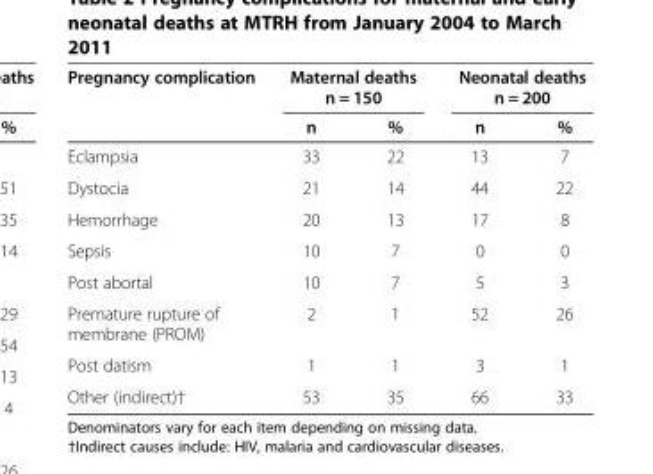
<table><thead><tr><td rowspan="2">Pregnancy complication</td><td colspan="2">Maternal deaths n = 150</td><td colspan="2">Neonatal deaths n = 200</td></tr><tr><td>n</td><td>%</td><td>n</td><td>%</td></tr></thead><tbody><tr><td>Eclampsia</td><td>33</td><td>22</td><td>13</td><td>7</td></tr><tr><td>Dystocia</td><td>21</td><td>14</td><td>44</td><td>22</td></tr><tr><td>Hemorrhage</td><td>20</td><td>13</td><td>17</td><td>8</td></tr><tr><td>Sepsis</td><td>10</td><td>7</td><td>0</td><td>0</td></tr><tr><td>Post abortal</td><td>10</td><td>7</td><td>5</td><td>3</td></tr><tr><td>Premature rupture of membrane (PROM)</td><td>2</td><td>1</td><td>52</td><td>26</td></tr><tr><td>Post datism</td><td>1</td><td>1</td><td>3</td><td>1</td></tr><tr><td>Other (indirect)†</td><td>53</td><td>35</td><td>66</td><td>33</td></tr></tbody></table>